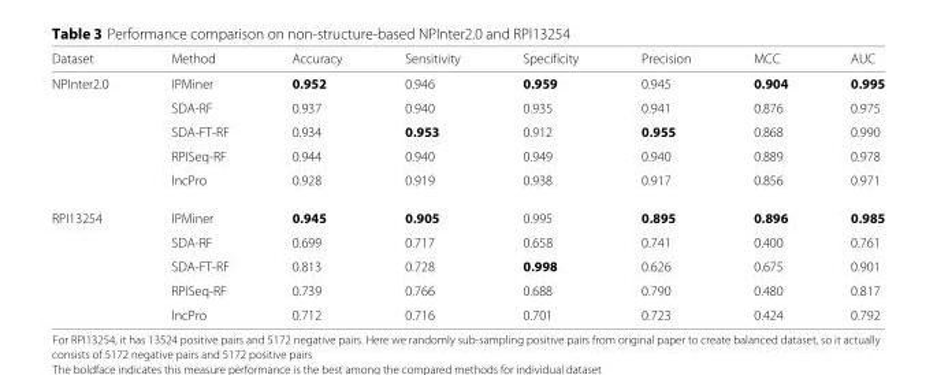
<table><thead><tr><td>Dataset</td><td>Method</td><td>Accuracy</td><td>Sensitivity</td><td>Specificity</td><td>Precision</td><td>MCC</td><td>AUC</td></tr></thead><tbody><tr><td rowspan="5">NPInter2.0</td><td>IPMiner</td><td>0.952</td><td>0.946</td><td>0.959</td><td>0.945</td><td>0.904</td><td>0.995</td></tr><tr><td>SDA-RF</td><td>0.937</td><td>0.940</td><td>0.935</td><td>0.941</td><td>0.876</td><td>0.975</td></tr><tr><td>SDA-FT-RF</td><td>0.934</td><td>0.953</td><td>0.912</td><td>0.955</td><td>0.868</td><td>0.990</td></tr><tr><td>RPISeq-RF</td><td>0.944</td><td>0.940</td><td>0.949</td><td>0.940</td><td>0.889</td><td>0.978</td></tr><tr><td>lncPro</td><td>0.928</td><td>0.919</td><td>0.938</td><td>0.917</td><td>0.856</td><td>0.971</td></tr><tr><td rowspan="5">RPI13254</td><td>IPMiner</td><td>0.945</td><td>0.905</td><td>0.995</td><td>0.895</td><td>0.896</td><td>0.985</td></tr><tr><td>SDA-RF</td><td>0.699</td><td>0.717</td><td>0.658</td><td>0.741</td><td>0.400</td><td>0.761</td></tr><tr><td>SDA-FT-RF</td><td>0.813</td><td>0.728</td><td>0.998</td><td>0.626</td><td>0.675</td><td>0.901</td></tr><tr><td>RPISeq-RF</td><td>0.739</td><td>0.766</td><td>0.688</td><td>0.790</td><td>0.480</td><td>0.817</td></tr><tr><td>lncPro</td><td>0.712</td><td>0.716</td><td>0.701</td><td>0.723</td><td>0.424</td><td>0.792</td></tr></tbody></table>